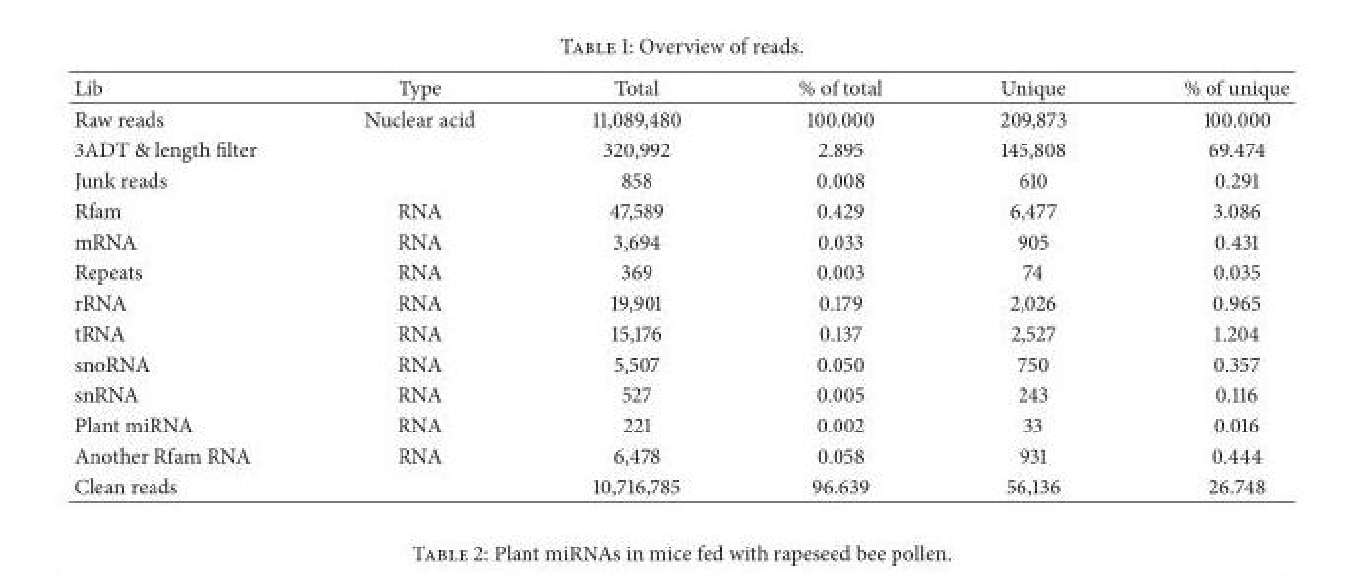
<table><thead><tr><td>Lib</td><td>Type</td><td>Total</td><td>% of total</td><td>Unique</td><td>% of unique</td></tr></thead><tbody><tr><td>Raw reads</td><td>Nuclear acid</td><td>11,089,480</td><td>100.000</td><td>209,873</td><td>100.000</td></tr><tr><td>3ADT &amp; length filter</td><td></td><td>320,992</td><td>2.895</td><td>145,808</td><td>69.474</td></tr><tr><td>Junk reads</td><td></td><td>858</td><td>0.008</td><td>610</td><td>0.291</td></tr><tr><td>Rfam</td><td>RNA</td><td>47,589</td><td>0.429</td><td>6,477</td><td>3.086</td></tr><tr><td>mRNA</td><td>RNA</td><td>3,694</td><td>0.033</td><td>905</td><td>0.431</td></tr><tr><td>Repeats</td><td>RNA</td><td>369</td><td>0.003</td><td>74</td><td>0.035</td></tr><tr><td>rRNA</td><td>RNA</td><td>19,901</td><td>0.179</td><td>2,026</td><td>0.965</td></tr><tr><td>tRNA</td><td>RNA</td><td>15,176</td><td>0.137</td><td>2,527</td><td>1.204</td></tr><tr><td>snoRNA</td><td>RNA</td><td>5,507</td><td>0.050</td><td>750</td><td>0.357</td></tr><tr><td>snRNA</td><td>RNA</td><td>527</td><td>0.005</td><td>243</td><td>0.116</td></tr><tr><td>Plant miRNA</td><td>RNA</td><td>221</td><td>0.002</td><td>33</td><td>0.016</td></tr><tr><td>Another Rfam RNA</td><td>RNA</td><td>6,478</td><td>0.058</td><td>931</td><td>0.444</td></tr><tr><td>Clean reads</td><td></td><td>10,716,785</td><td>96.639</td><td>56,136</td><td>26.748</td></tr></tbody></table>